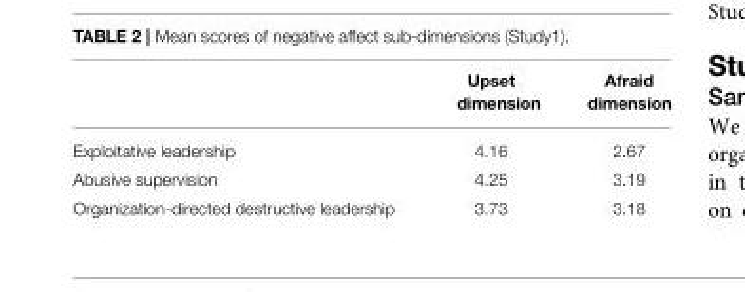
<table><thead><tr><td></td><td>Upset dimension</td><td>Afraid dimension</td></tr></thead><tbody><tr><td>Exploitative leadership</td><td>4.16</td><td>2.67</td></tr><tr><td>Abusive supervision</td><td>4.25</td><td>3.19</td></tr><tr><td>Organization-directed destructive leadership</td><td>3.73</td><td>3.18</td></tr></tbody></table>